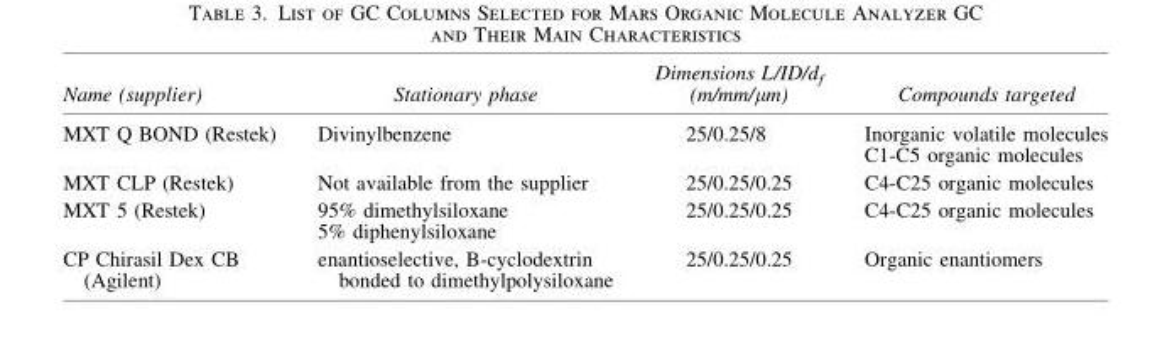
<table><thead><tr><td>Name (supplier)</td><td>Stationary phase</td><td>Dimensions L/ID/d<sub>f</sub> (m/mm/μm)</td><td>Compounds targeted</td></tr></thead><tbody><tr><td>MXT Q BOND (Restek)</td><td>Divinylbenzene</td><td>25/0.25/8</td><td>Inorganic volatile molecules C1-C5 organic molecules</td></tr><tr><td>MXT CLP (Restek)</td><td>Not available from the supplier</td><td>25/0.25/0.25</td><td>C4-C25 organic molecules</td></tr><tr><td rowspan="2">MXT 5 (Restek)</td><td>95% dimethylsiloxane</td><td>25/0.25/0.25</td><td>C4-C25 organic molecules</td></tr><tr><td>5% diphenylsiloxane</td><td></td><td></td></tr><tr><td>CP Chirasil Dex CB (Agilent)</td><td>enantioselective, B-cyclodextrin bonded to dimethylpolysiloxane</td><td>25/0.25/0.25</td><td>Organic enantiomers</td></tr></tbody></table>